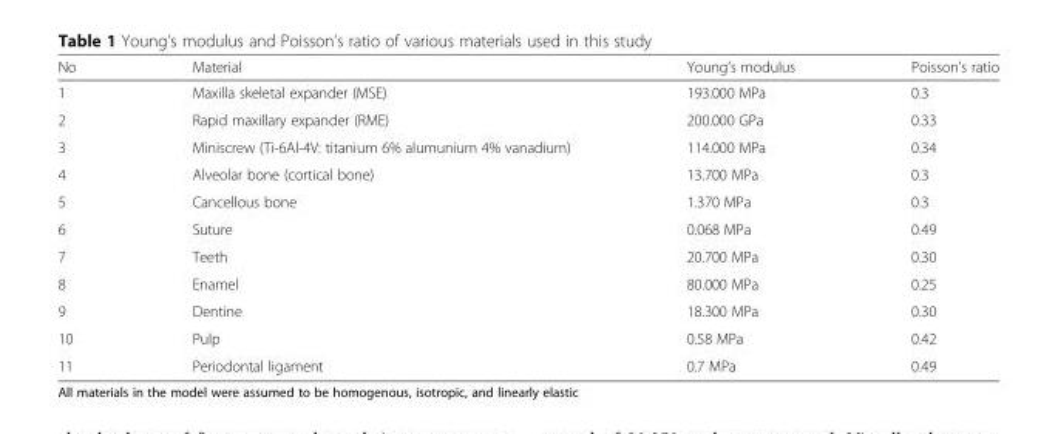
<table><thead><tr><td>No</td><td>Material</td><td>Young’s modulus</td><td>Poisson’s ratio</td></tr></thead><tbody><tr><td>1</td><td>Maxilla skeletal expander (MSE)</td><td>193.000 MPa</td><td>0.3</td></tr><tr><td>2</td><td>Rapid maxillary expander (RME)</td><td>200.000 GPa</td><td>0.33</td></tr><tr><td>3</td><td>Miniscrew (Ti-6Al-4V: titanium 6% alumunium 4% vanadium)</td><td>114.000 MPa</td><td>0.34</td></tr><tr><td>4</td><td>Alveolar bone (cortical bone)</td><td>13.700 MPa</td><td>0.3</td></tr><tr><td>5</td><td>Cancellous bone</td><td>1.370 MPa</td><td>0.3</td></tr><tr><td>6</td><td>Suture</td><td>0.068 MPa</td><td>0.49</td></tr><tr><td>7</td><td>Teeth</td><td>20.700 MPa</td><td>0.30</td></tr><tr><td>8</td><td>Enamel</td><td>80.000 MPa</td><td>0.25</td></tr><tr><td>9</td><td>Dentine</td><td>18.300 MPa</td><td>0.30</td></tr><tr><td>10</td><td>Pulp</td><td>0.58 MPa</td><td>0.42</td></tr><tr><td>11</td><td>Periodontal ligament</td><td>0.7 MPa</td><td>0.49</td></tr></tbody></table>